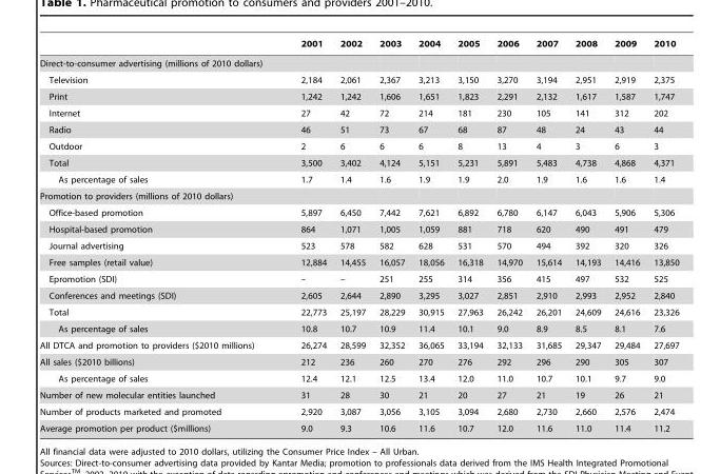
<table><thead><tr><td></td><td>2001</td><td>2002</td><td>2003</td><td>2004</td><td>2005</td><td>2006</td><td>2007</td><td>2008</td><td>2009</td><td>2010</td></tr></thead><tbody><tr><td colspan="11">Direct-to-consumer advertising (millions of 2010 dollars)</td></tr><tr><td>Television</td><td>2,184</td><td>2,061</td><td>2,367</td><td>3,213</td><td>3,150</td><td>3,270</td><td>3,194</td><td>2,951</td><td>2,919</td><td>2,375</td></tr><tr><td>Print</td><td>1,242</td><td>1,242</td><td>1,606</td><td>1,651</td><td>1,823</td><td>2,291</td><td>2,132</td><td>1,617</td><td>1,587</td><td>1,747</td></tr><tr><td>Internet</td><td>27</td><td>42</td><td>72</td><td>214</td><td>181</td><td>230</td><td>105</td><td>141</td><td>312</td><td>202</td></tr><tr><td>Radio</td><td>46</td><td>51</td><td>73</td><td>67</td><td>68</td><td>87</td><td>48</td><td>24</td><td>43</td><td>44</td></tr><tr><td>Outdoor</td><td>2</td><td>6</td><td>6</td><td>6</td><td>8</td><td>13</td><td>4</td><td>3</td><td>6</td><td>3</td></tr><tr><td>Total</td><td>3,500</td><td>3,402</td><td>4,124</td><td>5,151</td><td>5,231</td><td>5,891</td><td>5,483</td><td>4,738</td><td>4,868</td><td>4,371</td></tr><tr><td>As percentage of sales</td><td>1.7</td><td>1.4</td><td>1.6</td><td>1.9</td><td>1.9</td><td>2.0</td><td>1.9</td><td>1.6</td><td>1.6</td><td>1.4</td></tr><tr><td colspan="11">Promotion to providers (millions of 2010 dollars)</td></tr><tr><td>Office-based promotion</td><td>5,897</td><td>6,450</td><td>7,442</td><td>7,621</td><td>6,892</td><td>6,780</td><td>6,147</td><td>6,043</td><td>5,906</td><td>5,306</td></tr><tr><td>Hospital-based promotion</td><td>864</td><td>1,071</td><td>1,005</td><td>1,059</td><td>881</td><td>718</td><td>620</td><td>490</td><td>491</td><td>479</td></tr><tr><td>Journal advertising</td><td>523</td><td>578</td><td>582</td><td>628</td><td>531</td><td>570</td><td>494</td><td>392</td><td>320</td><td>326</td></tr><tr><td>Free samples (retail value)</td><td>12,884</td><td>14,455</td><td>16,057</td><td>18,056</td><td>16,318</td><td>14,970</td><td>15,614</td><td>14,193</td><td>14,416</td><td>13,850</td></tr><tr><td>Epromotion (SDI)</td><td>–</td><td>–</td><td>251</td><td>255</td><td>314</td><td>356</td><td>415</td><td>497</td><td>532</td><td>525</td></tr><tr><td>Conferences and meetings (SDI)</td><td>2,605</td><td>2,644</td><td>2,890</td><td>3,295</td><td>3,027</td><td>2,851</td><td>2,910</td><td>2,993</td><td>2,952</td><td>2,840</td></tr><tr><td>Total</td><td>22,773</td><td>25,197</td><td>28,229</td><td>30,915</td><td>27,963</td><td>26,242</td><td>26,201</td><td>24,609</td><td>24,616</td><td>23,326</td></tr><tr><td>As percentage of sales</td><td>10.8</td><td>10.7</td><td>10.9</td><td>11.4</td><td>10.1</td><td>9.0</td><td>8.9</td><td>8.5</td><td>8.1</td><td>7.6</td></tr><tr><td>All DTCA and promotion to providers ($2010 millions)</td><td>26,274</td><td>28,599</td><td>32,352</td><td>36,065</td><td>33,194</td><td>32,133</td><td>31,685</td><td>29,347</td><td>29,484</td><td>27,697</td></tr><tr><td>All sales ($2010 billions)</td><td>212</td><td>236</td><td>260</td><td>270</td><td>276</td><td>292</td><td>296</td><td>290</td><td>305</td><td>307</td></tr><tr><td>As percentage of sales</td><td>12.4</td><td>12.1</td><td>12.5</td><td>13.4</td><td>12.0</td><td>11.0</td><td>10.7</td><td>10.1</td><td>9.7</td><td>9.0</td></tr><tr><td>Number of new molecular entities launched</td><td>31</td><td>28</td><td>30</td><td>21</td><td>20</td><td>27</td><td>21</td><td>19</td><td>26</td><td>21</td></tr><tr><td>Number of products marketed and promoted</td><td>2,920</td><td>3,087</td><td>3,056</td><td>3,105</td><td>3,094</td><td>2,680</td><td>2,730</td><td>2,660</td><td>2,576</td><td>2,474</td></tr><tr><td>Average promotion per product ($millions)</td><td>9.0</td><td>9.3</td><td>10.6</td><td>11.6</td><td>10.7</td><td>12.0</td><td>11.6</td><td>11.0</td><td>11.4</td><td>11.2</td></tr></tbody></table>